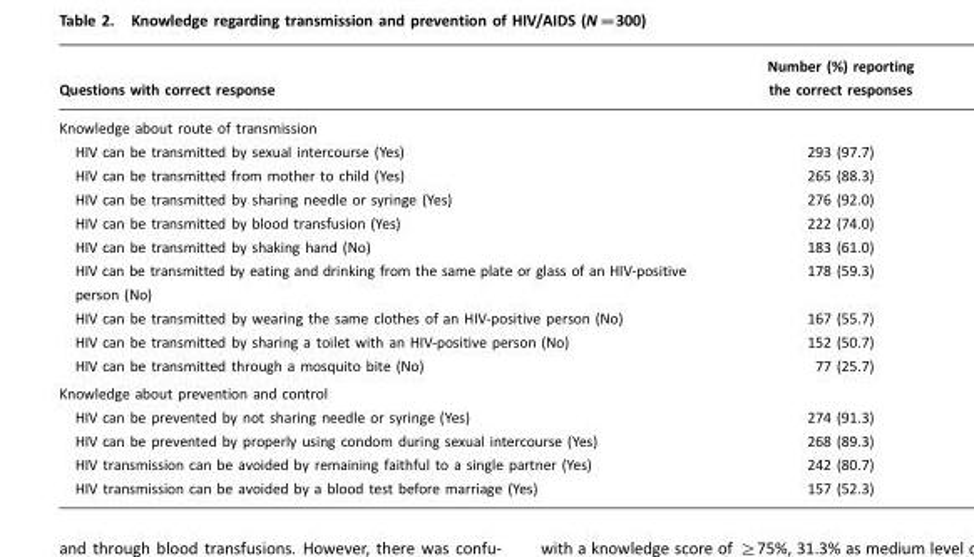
<table><thead><tr><td>Questions with correct response</td><td>Number (%) reporting the correct responses</td></tr></thead><tbody><tr><td colspan="2">Knowledge about route of transmission</td></tr><tr><td>HIV can be transmitted by sexual intercourse (Yes)</td><td>293 (97.7)</td></tr><tr><td>HIV can be transmitted from mother to child (Yes)</td><td>265 (88.3)</td></tr><tr><td>HIV can be transmitted by sharing needle or syringe (Yes)</td><td>276 (92.0)</td></tr><tr><td>HIV can be transmitted by blood transfusion (Yes)</td><td>222 (74.0)</td></tr><tr><td>HIV can be transmitted by shaking hand (No)</td><td>183 (61.0)</td></tr><tr><td>HIV can be transmitted by eating and drinking from the same plate or glass of an HIV-positive person (No)</td><td>178 (59.3)</td></tr><tr><td>HIV can be transmitted by wearing the same clothes of an HIV-positive person (No)</td><td>167 (55.7)</td></tr><tr><td>HIV can be transmitted by sharing a toilet with an HIV-positive person (No)</td><td>152 (50.7)</td></tr><tr><td>HIV can be transmitted through a mosquito bite (No)</td><td>77 (25.7)</td></tr><tr><td colspan="2">Knowledge about prevention and control</td></tr><tr><td>HIV can be prevented by not sharing needle or syringe (Yes)</td><td>274 (91.3)</td></tr><tr><td>HIV can be prevented by properly using condom during sexual intercourse (Yes)</td><td>268 (89.3)</td></tr><tr><td>HIV transmission can be avoided by remaining faithful to a single partner (Yes)</td><td>242 (80.7)</td></tr><tr><td>HIV transmission can be avoided by a blood test before marriage (Yes)</td><td>157 (52.3)</td></tr></tbody></table>